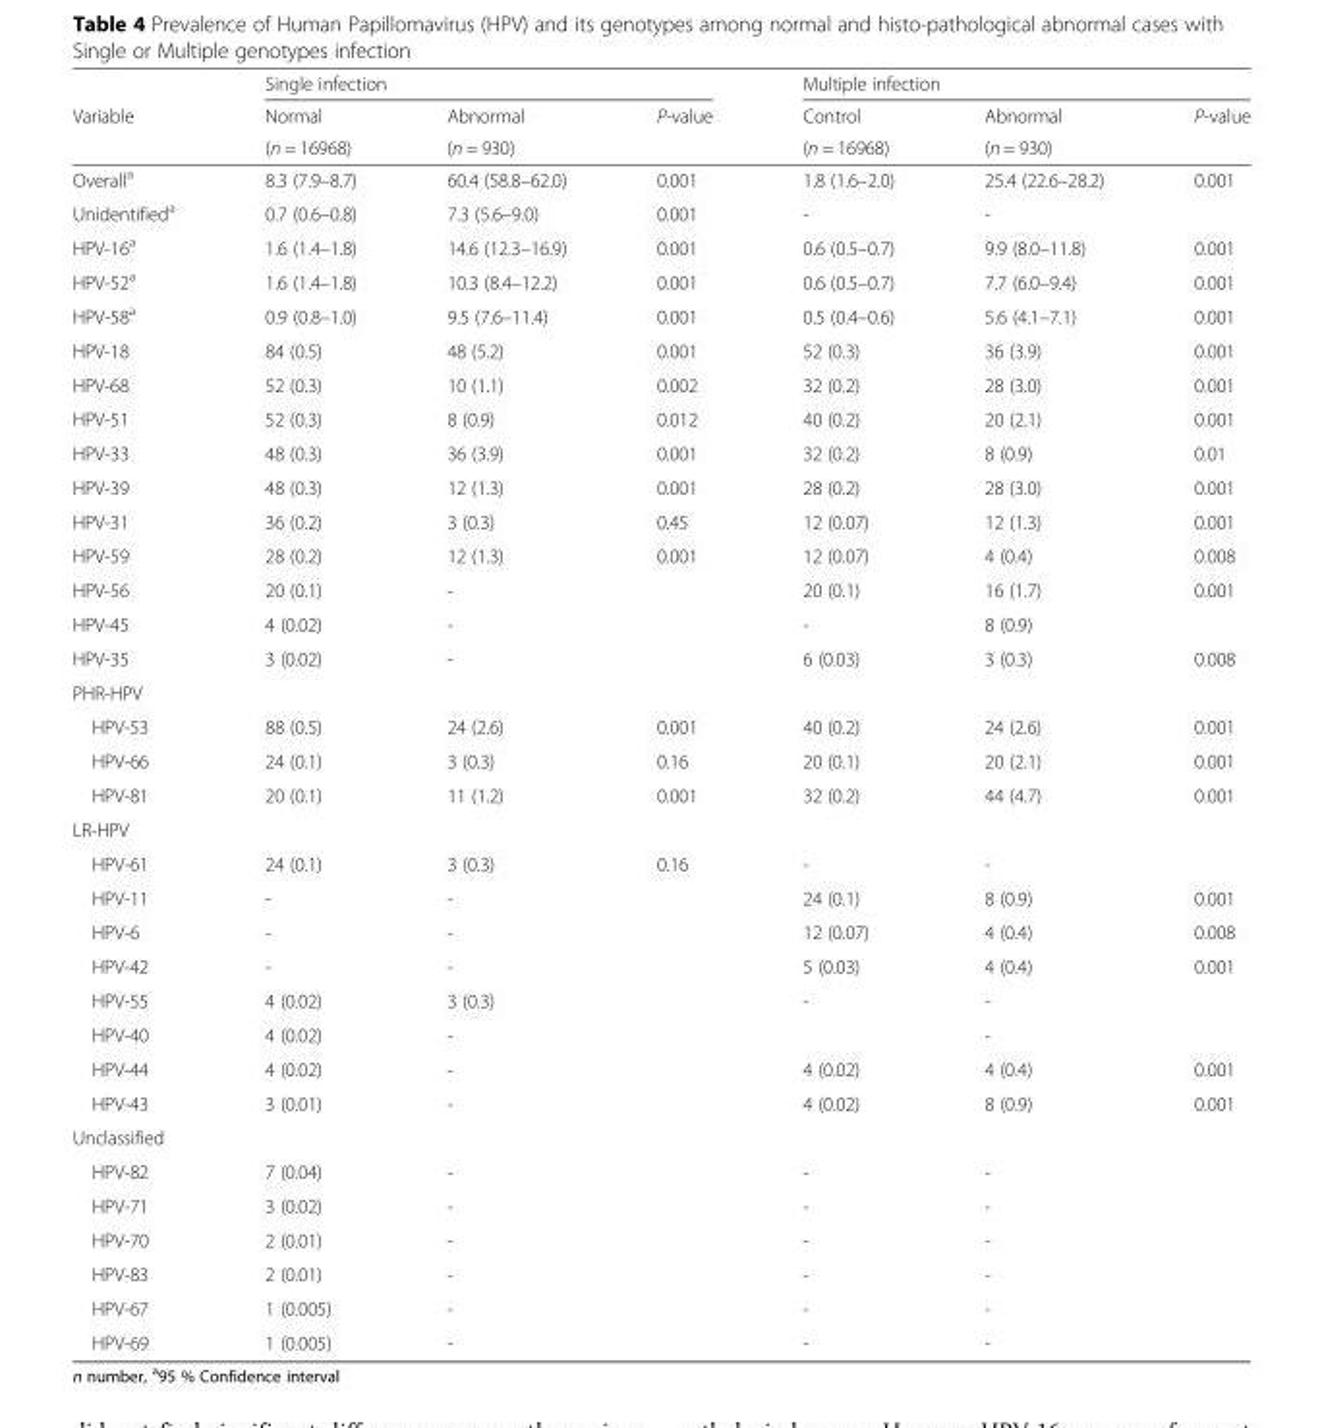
<table><thead><tr><td rowspan="3">Variable</td><td colspan="3">Single infection</td><td colspan="3">Multiple infection</td></tr><tr><td rowspan="2">Normal (n = 16968)</td><td rowspan="2">Abnormal (n = 930)</td><td rowspan="2">P-value</td><td rowspan="2">Control (n = 16968)</td><td rowspan="2">Abnormal (n = 930)</td><td rowspan="2">P-value</td></tr><tr></tr></thead><tbody><tr><td>Overall<sup>a</sup></td><td>8.3 (7.9–8.7)</td><td>60.4 (58.8–62.0)</td><td>0.001</td><td>1.8 (1.6–2.0)</td><td>25.4 (22.6–28.2)</td><td>0.001</td></tr><tr><td>Unidentified<sup>a</sup></td><td>0.7 (0.6–0.8)</td><td>7.3 (5.6–9.0)</td><td>0.001</td><td>-</td><td>-</td><td></td></tr><tr><td>HPV-16<sup>a</sup></td><td>1.6 (1.4–1.8)</td><td>14.6 (12.3–16.9)</td><td>0.001</td><td>0.6 (0.5–0.7)</td><td>9.9 (8.0–11.8)</td><td>0.001</td></tr><tr><td>HPV-52<sup>a</sup></td><td>1.6 (1.4–1.8)</td><td>10.3 (8.4–12.2)</td><td>0.001</td><td>0.6 (0.5–0.7)</td><td>7.7 (6.0–9.4)</td><td>0.001</td></tr><tr><td>HPV-58<sup>a</sup></td><td>0.9 (0.8–1.0)</td><td>9.5 (7.6–11.4)</td><td>0.001</td><td>0.5 (0.4–0.6)</td><td>5.6 (4.1–7.1)</td><td>0.001</td></tr><tr><td>HPV-18</td><td>84 (0.5)</td><td>48 (5.2)</td><td>0.001</td><td>52 (0.3)</td><td>36 (3.9)</td><td>0.001</td></tr><tr><td>HPV-68</td><td>52 (0.3)</td><td>10 (1.1)</td><td>0.002</td><td>32 (0.2)</td><td>28 (3.0)</td><td>0.001</td></tr><tr><td>HPV-51</td><td>52 (0.3)</td><td>8 (0.9)</td><td>0.012</td><td>40 (0.2)</td><td>20 (2.1)</td><td>0.001</td></tr><tr><td>HPV-33</td><td>48 (0.3)</td><td>36 (3.9)</td><td>0.001</td><td>32 (0.2)</td><td>8 (0.9)</td><td>0.01</td></tr><tr><td>HPV-39</td><td>48 (0.3)</td><td>12 (1.3)</td><td>0.001</td><td>28 (0.2)</td><td>28 (3.0)</td><td>0.001</td></tr><tr><td>HPV-31</td><td>36 (0.2)</td><td>3 (0.3)</td><td>0.45</td><td>12 (0.07)</td><td>12 (1.3)</td><td>0.001</td></tr><tr><td>HPV-59</td><td>28 (0.2)</td><td>12 (1.3)</td><td>0.001</td><td>12 (0.07)</td><td>4 (0.4)</td><td>0.008</td></tr><tr><td>HPV-56</td><td>20 (0.1)</td><td>-</td><td></td><td>20 (0.1)</td><td>16 (1.7)</td><td>0.001</td></tr><tr><td>HPV-45</td><td>4 (0.02)</td><td>-</td><td></td><td>-</td><td>8 (0.9)</td><td></td></tr><tr><td>HPV-35</td><td>3 (0.02)</td><td>-</td><td></td><td>6 (0.03)</td><td>3 (0.3)</td><td>0.008</td></tr><tr><td colspan="7">PHR-HPV</td></tr><tr><td>HPV-53</td><td>88 (0.5)</td><td>24 (2.6)</td><td>0.001</td><td>40 (0.2)</td><td>24 (2.6)</td><td>0.001</td></tr><tr><td>HPV-66</td><td>24 (0.1)</td><td>3 (0.3)</td><td>0.16</td><td>20 (0.1)</td><td>20 (2.1)</td><td>0.001</td></tr><tr><td>HPV-81</td><td>20 (0.1)</td><td>11 (1.2)</td><td>0.001</td><td>32 (0.2)</td><td>44 (4.7)</td><td>0.001</td></tr><tr><td colspan="7">LR-HPV</td></tr><tr><td>HPV-61</td><td>24 (0.1)</td><td>3 (0.3)</td><td>0.16</td><td>-</td><td>-</td><td></td></tr><tr><td>HPV-11</td><td>-</td><td>-</td><td></td><td>24 (0.1)</td><td>8 (0.9)</td><td>0.001</td></tr><tr><td>HPV-6</td><td>-</td><td>-</td><td></td><td>12 (0.07)</td><td>4 (0.4)</td><td>0.008</td></tr><tr><td>HPV-42</td><td>-</td><td>-</td><td></td><td>5 (0.03)</td><td>4 (0.4)</td><td>0.001</td></tr><tr><td>HPV-55</td><td>4 (0.02)</td><td>3 (0.3)</td><td></td><td>-</td><td>-</td><td></td></tr><tr><td>HPV-40</td><td>4 (0.02)</td><td>-</td><td></td><td></td><td>-</td><td></td></tr><tr><td>HPV-44</td><td>4 (0.02)</td><td>-</td><td></td><td>4 (0.02)</td><td>4 (0.4)</td><td>0.001</td></tr><tr><td>HPV-43</td><td>3 (0.01)</td><td>-</td><td></td><td>4 (0.02)</td><td>8 (0.9)</td><td>0.001</td></tr><tr><td colspan="7">Unclassified</td></tr><tr><td>HPV-82</td><td>7 (0.04)</td><td>-</td><td></td><td>-</td><td>-</td><td></td></tr><tr><td>HPV-71</td><td>3 (0.02)</td><td>-</td><td></td><td>-</td><td>-</td><td></td></tr><tr><td>HPV-70</td><td>2 (0.01)</td><td>-</td><td></td><td>-</td><td>-</td><td></td></tr><tr><td>HPV-83</td><td>2 (0.01)</td><td>-</td><td></td><td>-</td><td>-</td><td></td></tr><tr><td>HPV-67</td><td>1 (0.005)</td><td>-</td><td></td><td>-</td><td>-</td><td></td></tr><tr><td>HPV-69</td><td>1 (0.005)</td><td>-</td><td></td><td>-</td><td>-</td><td></td></tr></tbody></table>